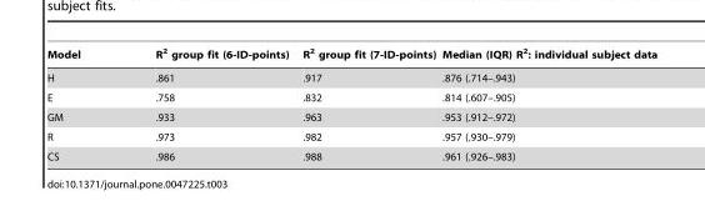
<table><thead><tr><td>Model</td><td>R<sup>2</sup> group fit (6-ID-points)</td><td>R<sup>2</sup> group fit (7-ID-points)</td><td>Median (IQR) R<sup>2</sup>: individual subject data</td></tr></thead><tbody><tr><td>H</td><td>.861</td><td>.917</td><td>.876 (.714–.943)</td></tr><tr><td>E</td><td>.758</td><td>.832</td><td>.814 (.607–.905)</td></tr><tr><td>GM</td><td>.933</td><td>.963</td><td>.953 (.912–.972)</td></tr><tr><td>R</td><td>.973</td><td>.982</td><td>.957 (.930–.979)</td></tr><tr><td>CS</td><td>.986</td><td>.988</td><td>.961 (.926–.983)</td></tr></tbody></table>